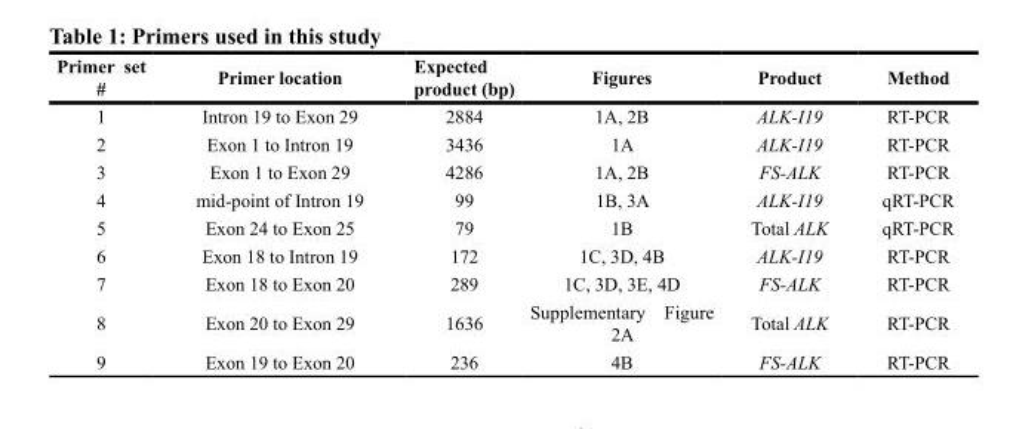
<table><thead><tr><td>Primer set #</td><td>Primer location</td><td>Expected product (bp)</td><td>Figures</td><td>Product</td><td>Method</td></tr></thead><tbody><tr><td>1</td><td>Intron 19 to Exon 29</td><td>2884</td><td>1A, 2B</td><td>ALK-I19</td><td>RT-PCR</td></tr><tr><td>2</td><td>Exon 1 to Intron 19</td><td>3436</td><td>1A</td><td>ALK-I19</td><td>RT-PCR</td></tr><tr><td>3</td><td>Exon 1 to Exon 29</td><td>4286</td><td>1A, 2B</td><td>FS-ALK</td><td>RT-PCR</td></tr><tr><td>4</td><td>mid-point of Intron 19</td><td>99</td><td>1B, 3A</td><td>ALK-I19</td><td>qRT-PCR</td></tr><tr><td>5</td><td>Exon 24 to Exon 25</td><td>79</td><td>1B</td><td>Total ALK</td><td>qRT-PCR</td></tr><tr><td>6</td><td>Exon 18 to Intron 19</td><td>172</td><td>1C, 3D, 4B</td><td>ALK-I19</td><td>RT-PCR</td></tr><tr><td>7</td><td>Exon 18 to Exon 20</td><td>289</td><td>1C, 3D, 3E, 4D</td><td>FS-ALK</td><td>RT-PCR</td></tr><tr><td>8</td><td>Exon 20 to Exon 29</td><td>1636</td><td>Supplementary Figure 2A</td><td>Total ALK</td><td>RT-PCR</td></tr><tr><td>9</td><td>Exon 19 to Exon 20</td><td>236</td><td>4B</td><td>FS-ALK</td><td>RT-PCR</td></tr></tbody></table>